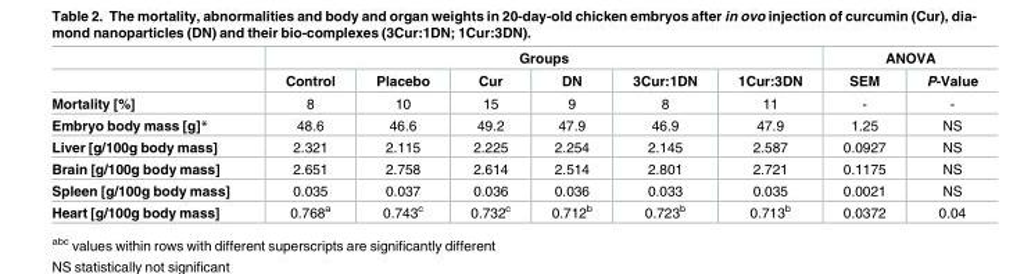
<table><thead><tr><td rowspan="2"></td><td colspan="6">Groups</td><td colspan="2">ANOVA</td></tr><tr><td>Control</td><td>Placebo</td><td>Cur</td><td>DN</td><td>3Cur:1DN</td><td>1Cur:3DN</td><td>SEM</td><td>P-Value</td></tr></thead><tbody><tr><td>Mortality [%]</td><td>8</td><td>10</td><td>15</td><td>9</td><td>8</td><td>11</td><td>-</td><td>-</td></tr><tr><td>Embryo body mass [g]*</td><td>48.6</td><td>46.6</td><td>49.2</td><td>47.9</td><td>46.9</td><td>47.9</td><td>1.25</td><td>NS</td></tr><tr><td>Liver [g/100g body mass]</td><td>2.321</td><td>2.115</td><td>2.225</td><td>2.254</td><td>2.145</td><td>2.587</td><td>0.0927</td><td>NS</td></tr><tr><td>Brain [g/100g body mass]</td><td>2.651</td><td>2.758</td><td>2.614</td><td>2.514</td><td>2.801</td><td>2.721</td><td>0.1175</td><td>NS</td></tr><tr><td>Spleen [g/100g body mass]</td><td>0.035</td><td>0.037</td><td>0.036</td><td>0.036</td><td>0.033</td><td>0.035</td><td>0.0021</td><td>NS</td></tr><tr><td>Heart [g/100g body mass]</td><td>0.768<sup>a</sup></td><td>0.743<sup>c</sup></td><td>0.732<sup>c</sup></td><td>0.712<sup>b</sup></td><td>0.723<sup>b</sup></td><td>0.713<sup>b</sup></td><td>0.0372</td><td>0.04</td></tr></tbody></table>